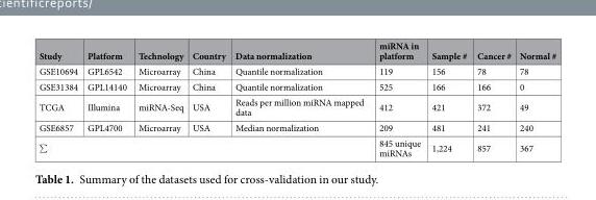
<table><thead><tr><td>Study</td><td>Platform</td><td>Technology</td><td>Country</td><td>Data normalization</td><td>miRNA in platform</td><td>Sample #</td><td>Cancer #</td><td>Normal #</td></tr></thead><tbody><tr><td>GSE10694</td><td>GPL6542</td><td>Microarray</td><td>China</td><td>Quantile normalization</td><td>119</td><td>156</td><td>78</td><td>78</td></tr><tr><td>GSE31384</td><td>GPL14140</td><td>Microarray</td><td>China</td><td>Quantile normalization</td><td>525</td><td>166</td><td>166</td><td>0</td></tr><tr><td>TCGA</td><td>Illumina</td><td>miRNA-Seq</td><td>USA</td><td>Reads per million miRNA mapped data</td><td>412</td><td>421</td><td>372</td><td>49</td></tr><tr><td>GSE6857</td><td>GPL4700</td><td>Microarray</td><td>USA</td><td>Median normalization</td><td>209</td><td>481</td><td>241</td><td>240</td></tr><tr><td colspan="5">∑</td><td>845 unique miRNAs</td><td>1,224</td><td>857</td><td>367</td></tr></tbody></table>